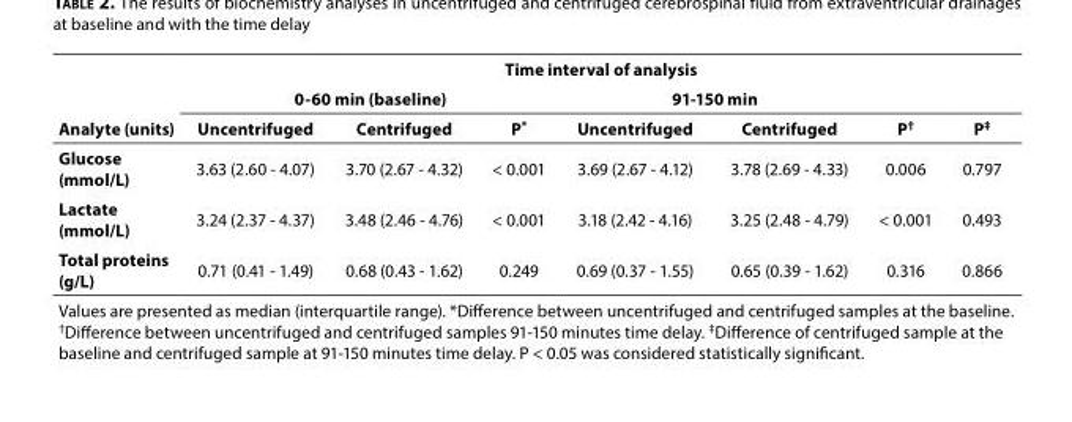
<table><thead><tr><td rowspan="3">Analyte (units)</td><td colspan="7">Time interval of analysis</td></tr><tr><td colspan="3">0-60 min (baseline)</td><td colspan="2">91-150 min</td><td colspan="2"></td></tr><tr><td>Uncentrifuged</td><td>Centrifuged</td><td>P*</td><td>Uncentrifuged</td><td>Centrifuged</td><td>P<sup>†</sup></td><td>P<sup>‡</sup></td></tr></thead><tbody><tr><td>Glucose (mmol/L)</td><td>3.63 (2.60 - 4.07)</td><td>3.70 (2.67 - 4.32)</td><td>&lt; 0.001</td><td>3.69 (2.67 - 4.12)</td><td>3.78 (2.69 - 4.33)</td><td>0.006</td><td>0.797</td></tr><tr><td>Lactate (mmol/L)</td><td>3.24 (2.37 - 4.37)</td><td>3.48 (2.46 - 4.76)</td><td>&lt; 0.001</td><td>3.18 (2.42 - 4.16)</td><td>3.25 (2.48 - 4.79)</td><td>&lt; 0.001</td><td>0.493</td></tr><tr><td>Total proteins (g/L)</td><td>0.71 (0.41 - 1.49)</td><td>0.68 (0.43 - 1.62)</td><td>0.249</td><td>0.69 (0.37 - 1.55)</td><td>0.65 (0.39 - 1.62)</td><td>0.316</td><td>0.866</td></tr><tr><td colspan="8">Values are presented as median (interquartile range). *Difference between uncentrifuged and centrifuged samples at the baseline. <sup>†</sup>Difference between uncentrifuged and centrifuged samples 91-150 minutes time delay. <sup>‡</sup>Difference of centrifuged sample at the baseline and centrifuged sample at 91-150 minutes time delay. P &lt; 0.05 was considered statistically significant.</td></tr></tbody></table>